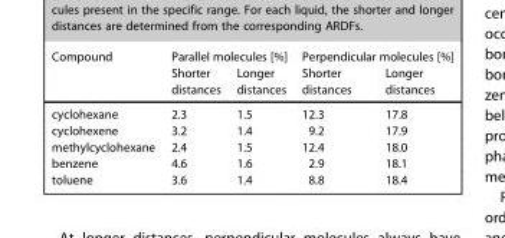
<table><thead><tr><td rowspan="2">Compound</td><td colspan="2">Parallel molecules [%]</td><td colspan="2">Perpendicular molecules [%]</td></tr><tr><td>Shorter distances</td><td>Longer distances</td><td>Shorter distances</td><td>Longer distances</td></tr></thead><tbody><tr><td>cyclohexane</td><td>2.3</td><td>1.5</td><td>12.3</td><td>17.8</td></tr><tr><td>cyclohexene</td><td>3.2</td><td>1.4</td><td>9.2</td><td>17.9</td></tr><tr><td>methylcyclohexane</td><td>2.4</td><td>1.5</td><td>12.4</td><td>18.0</td></tr><tr><td>benzene</td><td>4.6</td><td>1.6</td><td>2.9</td><td>18.1</td></tr><tr><td>toluene</td><td>3.6</td><td>1.4</td><td>8.8</td><td>18.4</td></tr></tbody></table>